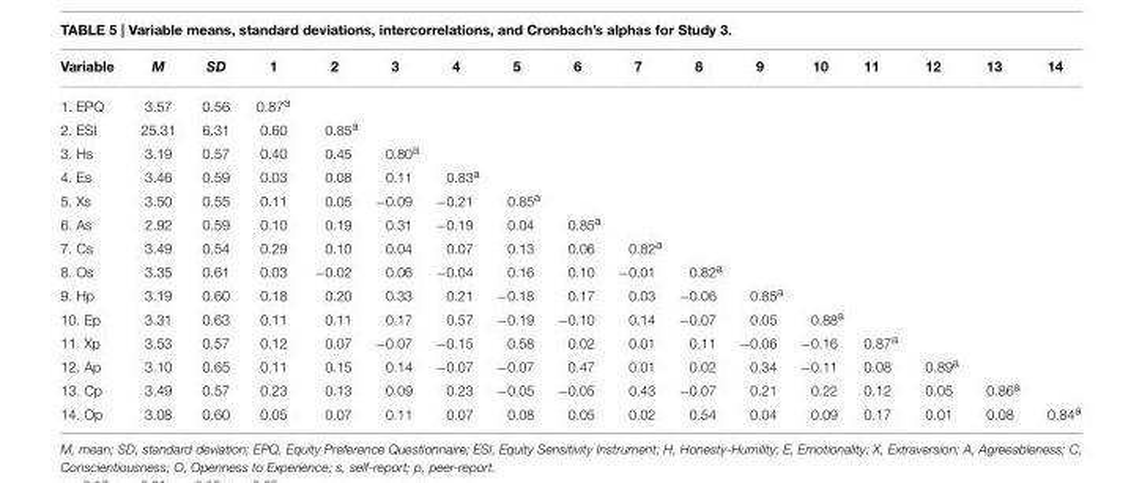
<table><thead><tr><td>Variable</td><td>M</td><td>SD</td><td>1</td><td>2</td><td>3</td><td>4</td><td>5</td><td>6</td><td>7</td><td>8</td><td>9</td><td>10</td><td>11</td><td>12</td><td>13</td><td>14</td></tr></thead><tbody><tr><td>1. EPQ</td><td>3.57</td><td>0.56</td><td>0.87<sup>a</sup></td><td></td><td></td><td></td><td></td><td></td><td></td><td></td><td></td><td></td><td></td><td></td><td></td><td></td></tr><tr><td>2. ESI</td><td>25.31</td><td>6.31</td><td>0.60</td><td>0.85<sup>a</sup></td><td></td><td></td><td></td><td></td><td></td><td></td><td></td><td></td><td></td><td></td><td></td><td></td></tr><tr><td>3. Hs</td><td>3.19</td><td>0.57</td><td>0.40</td><td>0.45</td><td>0.80<sup>a</sup></td><td></td><td></td><td></td><td></td><td></td><td></td><td></td><td></td><td></td><td></td><td></td></tr><tr><td>4. Es</td><td>3.46</td><td>0.59</td><td>0.03</td><td>0.08</td><td>0.11</td><td>0.83<sup>a</sup></td><td></td><td></td><td></td><td></td><td></td><td></td><td></td><td></td><td></td><td></td></tr><tr><td>5. Xs</td><td>3.50</td><td>0.55</td><td>0.11</td><td>0.05</td><td>−0.09</td><td>−0.21</td><td>0.85<sup>a</sup></td><td></td><td></td><td></td><td></td><td></td><td></td><td></td><td></td><td></td></tr><tr><td>6. As</td><td>2.92</td><td>0.59</td><td>0.10</td><td>0.19</td><td>0.31</td><td>−0.19</td><td>0.04</td><td>0.85<sup>a</sup></td><td></td><td></td><td></td><td></td><td></td><td></td><td></td><td></td></tr><tr><td>7. Cs</td><td>3.49</td><td>0.54</td><td>0.29</td><td>0.10</td><td>0.04</td><td>0.07</td><td>0.13</td><td>0.06</td><td>0.82<sup>a</sup></td><td></td><td></td><td></td><td></td><td></td><td></td><td></td></tr><tr><td>8. Os</td><td>3.35</td><td>0.61</td><td>0.03</td><td>−0.02</td><td>0.06</td><td>−0.04</td><td>0.16</td><td>0.10</td><td>−0.01</td><td>0.82<sup>a</sup></td><td></td><td></td><td></td><td></td><td></td><td></td></tr><tr><td>9. Hp</td><td>3.19</td><td>0.60</td><td>0.18</td><td>0.20</td><td>0.33</td><td>0.21</td><td>−0.18</td><td>0.17</td><td>0.03</td><td>−0.06</td><td>0.85<sup>a</sup></td><td></td><td></td><td></td><td></td><td></td></tr><tr><td>10. Ep</td><td>3.31</td><td>0.63</td><td>0.11</td><td>0.11</td><td>0.17</td><td>0.57</td><td>−0.19</td><td>−0.10</td><td>0.14</td><td>−0.07</td><td>0.05</td><td>0.88<sup>a</sup></td><td></td><td></td><td></td><td></td></tr><tr><td>11. Xp</td><td>3.53</td><td>0.57</td><td>0.12</td><td>0.07</td><td>−0.07</td><td>−0.15</td><td>0.58</td><td>0.02</td><td>0.01</td><td>0.11</td><td>−0.06</td><td>−0.16</td><td>0.87<sup>a</sup></td><td></td><td></td><td></td></tr><tr><td>12. Ap</td><td>3.10</td><td>0.65</td><td>0.11</td><td>0.15</td><td>0.14</td><td>−0.07</td><td>−0.07</td><td>0.47</td><td>0.01</td><td>0.02</td><td>0.34</td><td>−0.11</td><td>0.08</td><td>0.89<sup>a</sup></td><td></td><td></td></tr><tr><td>13. Cp</td><td>3.49</td><td>0.57</td><td>0.23</td><td>0.13</td><td>0.09</td><td>0.23</td><td>−0.05</td><td>−0.05</td><td>0.43</td><td>−0.07</td><td>0.21</td><td>0.22</td><td>0.12</td><td>0.05</td><td>0.86<sup>a</sup></td><td></td></tr><tr><td>14. Op</td><td>3.08</td><td>0.60</td><td>0.05</td><td>0.07</td><td>0.11</td><td>0.07</td><td>0.08</td><td>0.05</td><td>0.02</td><td>0.54</td><td>0.04</td><td>0.09</td><td>0.17</td><td>0.01</td><td>0.08</td><td>0.84<sup>a</sup></td></tr></tbody></table>